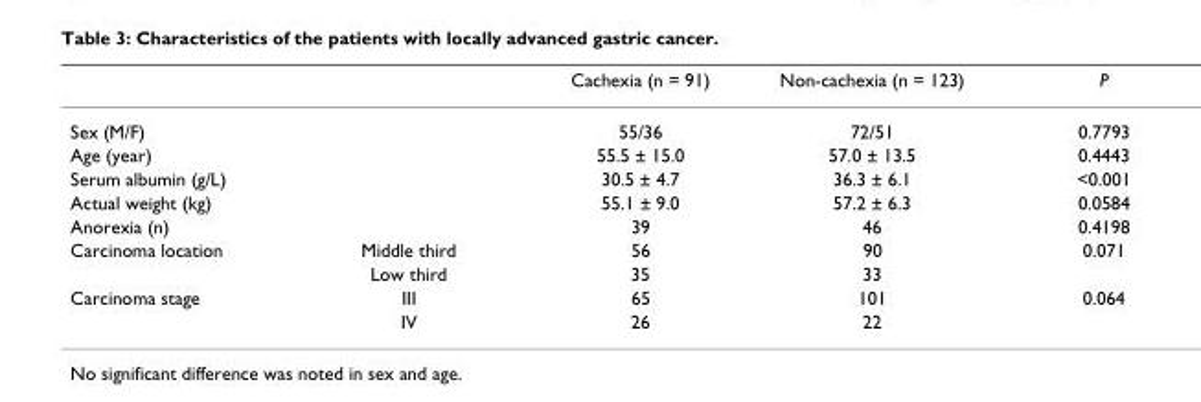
<table><thead><tr><td></td><td></td><td>Cachexia (n = 91)</td><td>Non-cachexia (n = 123)</td><td>P</td></tr></thead><tbody><tr><td colspan="2">Sex (M/F)</td><td>55/36</td><td>72/51</td><td>0.7793</td></tr><tr><td colspan="2">Age (year)</td><td>55.5 ± 15.0</td><td>57.0 ± 13.5</td><td>0.4443</td></tr><tr><td colspan="2">Serum albumin (g/L)</td><td>30.5 ± 4.7</td><td>36.3 ± 6.1</td><td>&lt;0.001</td></tr><tr><td colspan="2">Actual weight (kg)</td><td>55.1 ± 9.0</td><td>57.2 ± 6.3</td><td>0.0584</td></tr><tr><td colspan="2">Anorexia (n)</td><td>39</td><td>46</td><td>0.4198</td></tr><tr><td rowspan="2">Carcinoma location</td><td>Middle third</td><td>56</td><td>90</td><td>0.071</td></tr><tr><td>Low third</td><td>35</td><td>33</td><td></td></tr><tr><td rowspan="2">Carcinoma stage</td><td>III</td><td>65</td><td>101</td><td>0.064</td></tr><tr><td>IV</td><td>26</td><td>22</td><td></td></tr></tbody></table>